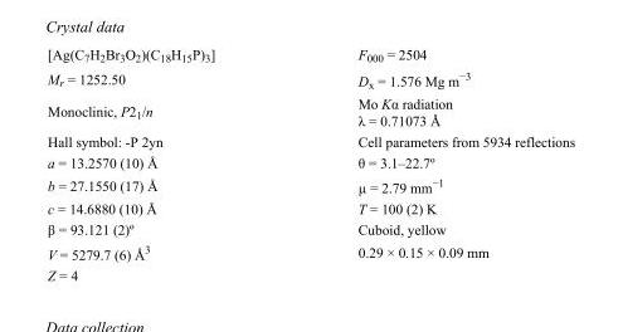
<table><tbody><tr><td>[Ag(C<sub>7</sub>H<sub>2</sub>Br<sub>3</sub>O<sub>2</sub>)(C<sub>18</sub>H<sub>15</sub>P)<sub>3</sub>]</td><td>F000 = 2504</td></tr><tr><td>M<sub>r</sub> = 1252.50</td><td>D<sub>x</sub> = 1.576 Mg m<sup>−3</sup></td></tr><tr><td>Monoclinic, P2<sub>1</sub>/n</td><td>Mo Kα radiation λ = 0.71073 Å</td></tr><tr><td>Hall symbol: -P 2yn</td><td>Cell parameters from 5934 reflections</td></tr><tr><td>a = 13.2570 (10) Å</td><td>θ = 3.1–22.7º</td></tr><tr><td>b = 27.1550 (17) Å</td><td>µ = 2.79 mm<sup>−1</sup></td></tr><tr><td>c = 14.6880 (10) Å</td><td>T = 100 (2) K</td></tr><tr><td>β = 93.121 (2)º</td><td>Cuboid, yellow</td></tr><tr><td>V = 5279.7 (6) Å<sup>3</sup></td><td>0.29 × 0.15 × 0.09 mm</td></tr><tr><td>Z = 4</td><td></td></tr></tbody></table>